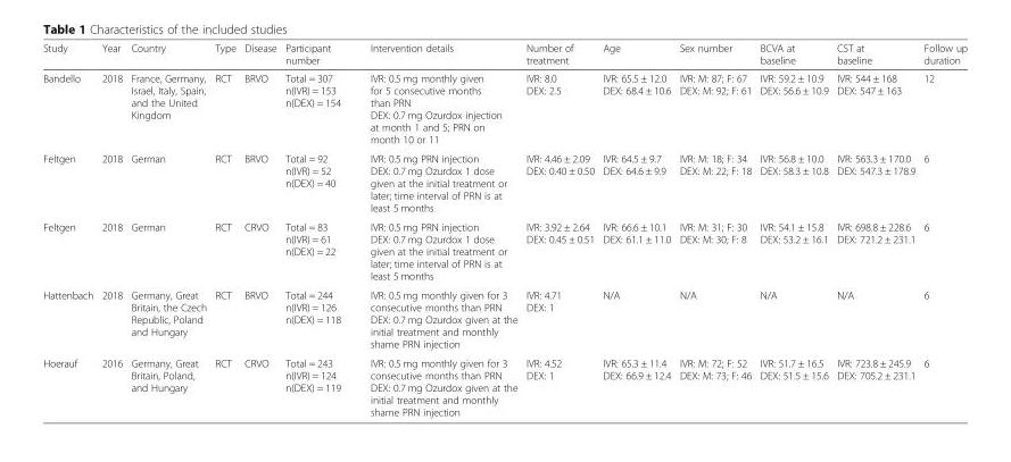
<table><thead><tr><td>Study</td><td>Year</td><td>Country</td><td>Type</td><td>Disease</td><td>Participant number</td><td>Intervention details</td><td>Number of treatment</td><td>Age</td><td>Sex number</td><td>BCVA at baseline</td><td>CST at baseline</td><td>Follow up duration</td></tr></thead><tbody><tr><td>Bandello</td><td>2018</td><td>France, Germany, Israel, Italy, Spain, and the United Kingdom</td><td>RCT</td><td>BRVO</td><td>Total = 307 n(IVR) = 153 n(DEX) = 154</td><td>IVR: 0.5 mg monthly given for 5 consecutive months than PRN DEX: 0.7 mg Ozurdox injection at month 1 and 5; PRN on month 10 or 11</td><td>IVR: 8.0 DEX: 2.5</td><td>IVR: 65.5 ± 12.0 DEX: 68.4 ± 10.6</td><td>IVR: M: 87; F: 67 DEX: M: 92; F: 61</td><td>IVR: 59.2 ± 10.9 DEX: 56.6 ± 10.9</td><td>IVR: 544 ± 168 DEX: 547 ± 163</td><td>12</td></tr><tr><td>Feltgen</td><td>2018</td><td>German</td><td>RCT</td><td>BRVO</td><td>Total = 92 n(IVR) = 52 n(DEX) = 40</td><td>IVR: 0.5 mg PRN injection DEX: 0.7 mg Ozurdox 1 dose given at the initial treatment or later; time interval of PRN is at least 5 months</td><td>IVR: 4.46 ± 2.09 DEX: 0.40 ± 0.50</td><td>IVR: 64.5 ± 9.7 DEX: 64.6 ± 9.9</td><td>IVR: M: 18; F: 34 DEX: M: 22; F: 18</td><td>IVR: 56.8 ± 10.0 DEX: 58.3 ± 10.8</td><td>IVR: 563.3 ± 170.0 DEX: 547.3 ± 178.9</td><td>6</td></tr><tr><td>Feltgen</td><td>2018</td><td>German</td><td>RCT</td><td>CRVO</td><td>Total = 83 n(IVR) = 61 n(DEX) = 22</td><td>IVR: 0.5 mg PRN injection DEX: 0.7 mg Ozurdox 1 dose given at the initial treatment or later; time interval of PRN is at least 5 months</td><td>IVR: 3.92 ± 2.64 DEX: 0.45 ± 0.51</td><td>IVR: 66.6 ± 10.1 DEX: 61.1 ± 11.0</td><td>IVR: M: 31; F: 30 DEX: M: 30; F: 8</td><td>IVR: 54.1 ± 15.8 DEX: 53.2 ± 16.1</td><td>IVR: 698.8 ± 228.6 DEX: 721.2 ± 231.1</td><td>6</td></tr><tr><td>Hattenbach</td><td>2018</td><td>Germany, Great Britain, the Czech Republic, Poland and Hungary</td><td>RCT</td><td>BRVO</td><td>Total = 244 n(IVR) = 126 n(DEX) = 118</td><td>IVR: 0.5 mg monthly given for 3 consecutive months than PRN DEX: 0.7 mg Ozurdox given at the initial treatment and monthly shame PRN injection</td><td>IVR: 4.71 DEX: 1</td><td>N/A</td><td>N/A</td><td>N/A</td><td>N/A</td><td>6</td></tr><tr><td>Hoerauf</td><td>2016</td><td>Germany, Great Britain, Poland, and Hungary</td><td>RCT</td><td>CRVO</td><td>Total = 243 n(IVR) = 124 n(DEX) = 119</td><td>IVR: 0.5 mg monthly given for 3 consecutive months than PRN DEX: 0.7 mg Ozurdox given at the initial treatment and monthly shame PRN injection</td><td>IVR: 4.52 DEX: 1</td><td>IVR: 65.3 ± 11.4 DEX: 66.9 ± 12.4</td><td>IVR: M: 72; F: 52 DEX: M: 73; F: 46</td><td>IVR: 51.7 ± 16.5 DEX: 51.5 ± 15.6</td><td>IVR: 723.8 ± 245.9 DEX: 705.2 ± 231.1</td><td>6</td></tr></tbody></table>